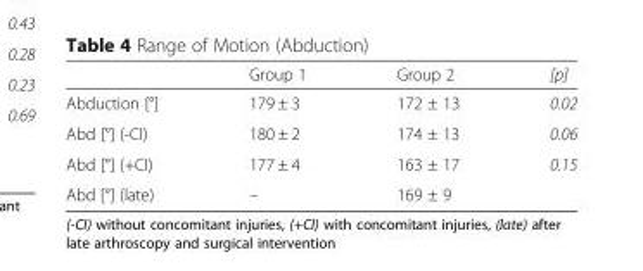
<table><thead><tr><td></td><td>Group 1</td><td>Group 2</td><td>[p]</td></tr></thead><tbody><tr><td>Abduction [°]</td><td>179 ± 3</td><td>172 ± 13</td><td>0.02</td></tr><tr><td>Abd [°] (-CI)</td><td>180 ± 2</td><td>174 ± 13</td><td>0.06</td></tr><tr><td>Abd [°] (+CI)</td><td>177 ± 4</td><td>163 ± 17</td><td>0.15</td></tr><tr><td>Abd [°] (late)</td><td>–</td><td>169 ± 9</td><td></td></tr></tbody></table>